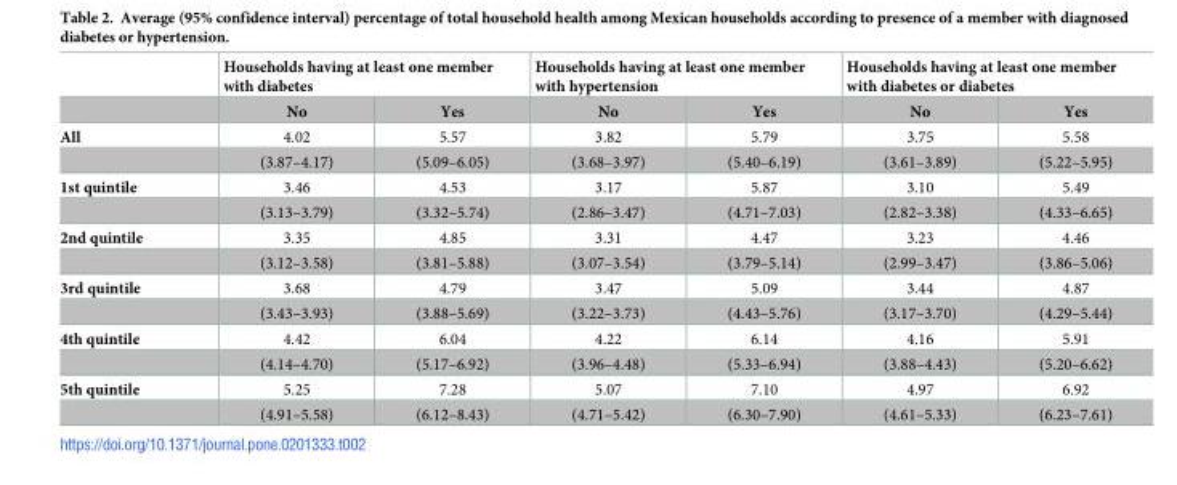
<table><thead><tr><td rowspan="2"></td><td colspan="2">Households having at least one member with diabetes</td><td colspan="2">Households having at least one member with hypertension</td><td colspan="2">Households having at least one member with diabetes or diabetes</td></tr><tr><td>No</td><td>Yes</td><td>No</td><td>Yes</td><td>No</td><td>Yes</td></tr></thead><tbody><tr><td rowspan="2">All</td><td>4.02</td><td>5.57</td><td>3.82</td><td>5.79</td><td>3.75</td><td>5.58</td></tr><tr><td>(3.87–4.17)</td><td>(5.09–6.05)</td><td>(3.68–3.97)</td><td>(5.40–6.19)</td><td>(3.61–3.89)</td><td>(5.22–5.95)</td></tr><tr><td rowspan="2">1st quintile</td><td>3.46</td><td>4.53</td><td>3.17</td><td>5.87</td><td>3.10</td><td>5.49</td></tr><tr><td>(3.13–3.79)</td><td>(3.32–5.74)</td><td>(2.86–3.47)</td><td>(4.71–7.03)</td><td>(2.82–3.38)</td><td>(4.33–6.65)</td></tr><tr><td rowspan="2">2nd quintile</td><td>3.35</td><td>4.85</td><td>3.31</td><td>4.47</td><td>3.23</td><td>4.46</td></tr><tr><td>(3.12–3.58)</td><td>(3.81–5.88)</td><td>(3.07–3.54)</td><td>(3.79–5.14)</td><td>(2.99–3.47)</td><td>(3.86–5.06)</td></tr><tr><td rowspan="2">3rd quintile</td><td>3.68</td><td>4.79</td><td>3.47</td><td>5.09</td><td>3.44</td><td>4.87</td></tr><tr><td>(3.43–3.93)</td><td>(3.88–5.69)</td><td>(3.22–3.73)</td><td>(4.43–5.76)</td><td>(3.17–3.70)</td><td>(4.29–5.44)</td></tr><tr><td rowspan="2">4th quintile</td><td>4.42</td><td>6.04</td><td>4.22</td><td>6.14</td><td>4.16</td><td>5.91</td></tr><tr><td>(4.14–4.70)</td><td>(5.17–6.92)</td><td>(3.96–4.48)</td><td>(5.33–6.94)</td><td>(3.88–4.43)</td><td>(5.20–6.62)</td></tr><tr><td rowspan="2">5th quintile</td><td>5.25</td><td>7.28</td><td>5.07</td><td>7.10</td><td>4.97</td><td>6.92</td></tr><tr><td>(4.91–5.58)</td><td>(6.12–8.43)</td><td>(4.71–5.42)</td><td>(6.30–7.90)</td><td>(4.61–5.33)</td><td>(6.23–7.61)</td></tr></tbody></table>